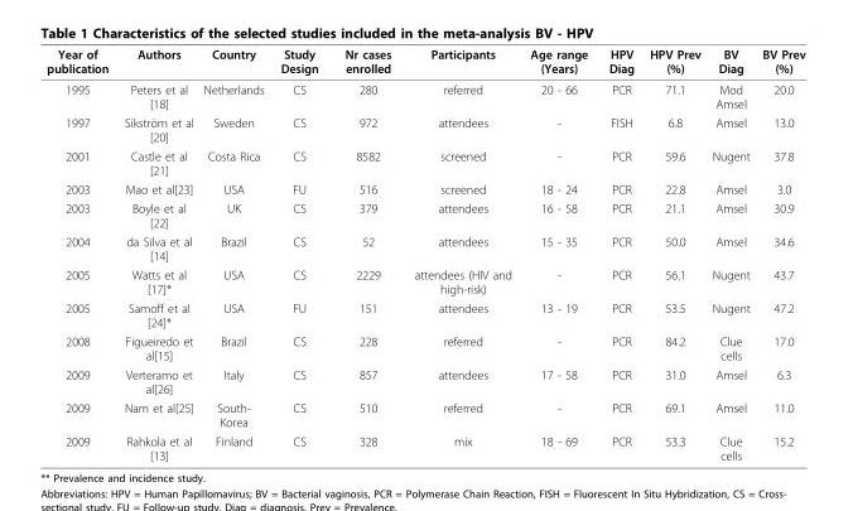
<table><thead><tr><td>Year of publication</td><td>Authors</td><td>Country</td><td>Study Design</td><td>Nr cases enrolled</td><td>Participants</td><td>Age range (Years)</td><td>HPV Diag</td><td>HPV Prev (%)</td><td>BV Diag</td><td>BV Prev (%)</td></tr></thead><tbody><tr><td>1995</td><td>Peters et al [18]</td><td>Netherlands</td><td>CS</td><td>280</td><td>referred</td><td>20 - 66</td><td>PCR</td><td>71.1</td><td>Mod Amsel</td><td>20.0</td></tr><tr><td>1997</td><td>Sikström et al [20]</td><td>Sweden</td><td>CS</td><td>972</td><td>attendees</td><td>-</td><td>FISH</td><td>6.8</td><td>Amsel</td><td>13.0</td></tr><tr><td>2001</td><td>Castle et al [21]</td><td>Costa Rica</td><td>CS</td><td>8582</td><td>screened</td><td>-</td><td>PCR</td><td>59.6</td><td>Nugent</td><td>37.8</td></tr><tr><td>2003</td><td>Mao et al[23]</td><td>USA</td><td>FU</td><td>516</td><td>screened</td><td>18 - 24</td><td>PCR</td><td>22.8</td><td>Amsel</td><td>3.0</td></tr><tr><td>2003</td><td>Boyle et al [22]</td><td>UK</td><td>CS</td><td>379</td><td>attendees</td><td>16 - 58</td><td>PCR</td><td>21.1</td><td>Amsel</td><td>30.9</td></tr><tr><td>2004</td><td>da Silva et al [14]</td><td>Brazil</td><td>CS</td><td>52</td><td>attendees</td><td>15 - 35</td><td>PCR</td><td>50.0</td><td>Amsel</td><td>34.6</td></tr><tr><td>2005</td><td>Watts et al [17]*</td><td>USA</td><td>CS</td><td>2229</td><td>attendees (HIV and high-risk)</td><td>-</td><td>PCR</td><td>56.1</td><td>Nugent</td><td>43.7</td></tr><tr><td>2005</td><td>Samoff et al [24]*</td><td>USA</td><td>FU</td><td>151</td><td>attendees</td><td>13 - 19</td><td>PCR</td><td>53.5</td><td>Nugent</td><td>47.2</td></tr><tr><td>2008</td><td>Figueiredo et al[15]</td><td>Brazil</td><td>CS</td><td>228</td><td>referred</td><td>-</td><td>PCR</td><td>84.2</td><td>Clue cells</td><td>17.0</td></tr><tr><td>2009</td><td>Verteramo et al[26]</td><td>Italy</td><td>CS</td><td>857</td><td>attendees</td><td>17 - 58</td><td>PCR</td><td>31.0</td><td>Amsel</td><td>6.3</td></tr><tr><td>2009</td><td>Nam et al[25]</td><td>South- Korea</td><td>CS</td><td>510</td><td>referred</td><td>-</td><td>PCR</td><td>69.1</td><td>Amsel</td><td>11.0</td></tr><tr><td>2009</td><td>Rahkola et al [13]</td><td>Finland</td><td>CS</td><td>328</td><td>mix</td><td>18 - 69</td><td>PCR</td><td>53.3</td><td>Clue cells</td><td>15.2</td></tr></tbody></table>